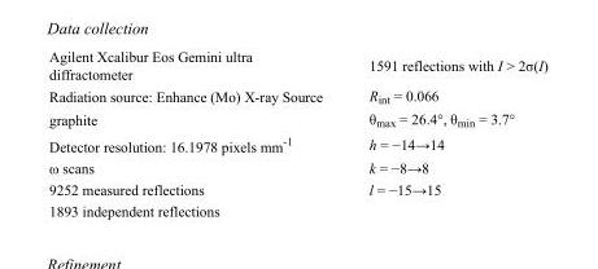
<table><tbody><tr><td>Agilent Xcalibur Eos Gemini ultra diffractometer</td><td>1591 reflections with I &gt; 2σ(I)</td></tr><tr><td>Radiation source: Enhance (Mo) X-ray Source</td><td>R<sub>int</sub> = 0.066</td></tr><tr><td>graphite</td><td>θ<sub>max</sub> = 26.4°, θ<sub>min</sub> = 3.7°</td></tr><tr><td>Detector resolution: 16.1978 pixels mm<sup>-1</sup></td><td>h = −14→14</td></tr><tr><td>ω scans</td><td>k = −8→8</td></tr><tr><td>9252 measured reflections</td><td>l = −15→15</td></tr><tr><td>1893 independent reflections</td><td></td></tr></tbody></table>